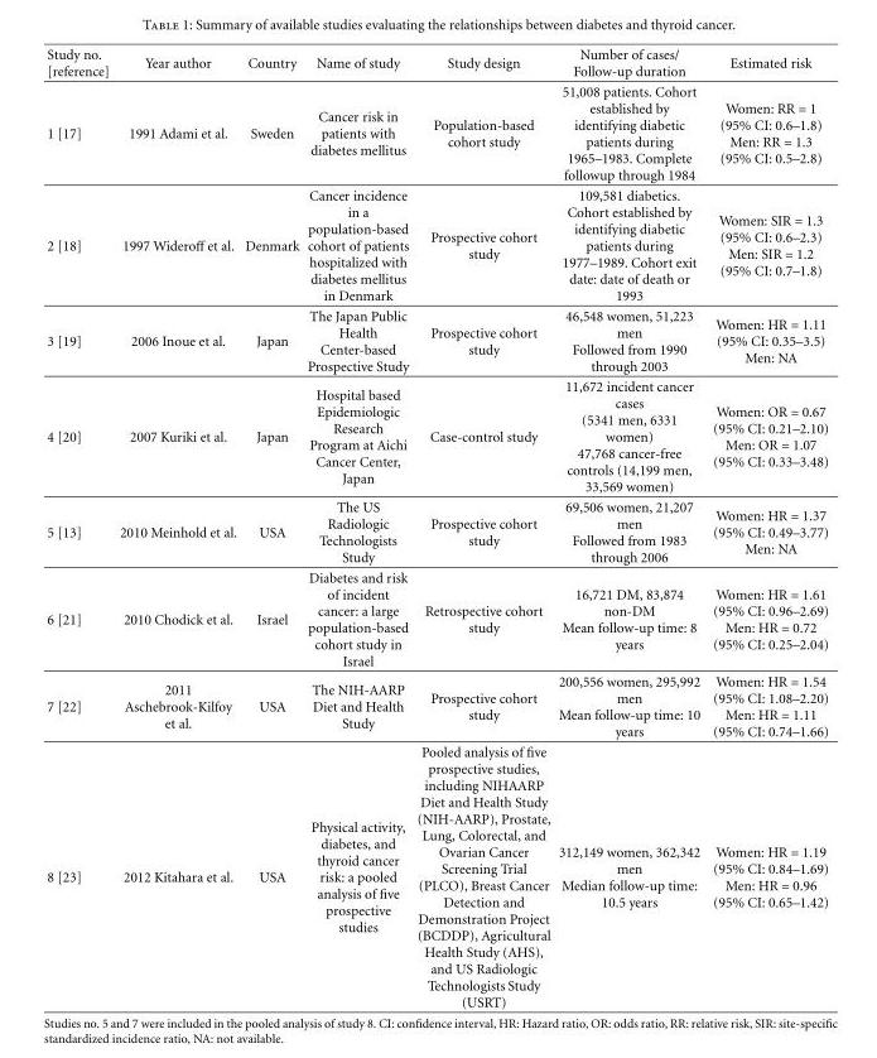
<table><thead><tr><td>Study no. [reference]</td><td>Year author</td><td>Country</td><td>Name of study</td><td>Study design</td><td>Number of cases/ Follow-up duration</td><td>Estimated risk</td></tr></thead><tbody><tr><td>1 [17]</td><td>1991 Adami et al.</td><td>Sweden</td><td>Cancer risk in patients with diabetes mellitus</td><td>Population-based cohort study</td><td>51,008 patients. Cohort established by identifying diabetic patients during 1965–1983. Complete followup through 1984</td><td>Women: RR = 1 (95% CI: 0.6–1.8) Men: RR = 1.3 (95% CI: 0.5–2.8)</td></tr><tr><td>2 [18]</td><td>1997 Wideroff et al.</td><td>Denmark</td><td>Cancer incidence in a population-based cohort of patients hospitalized with diabetes mellitus in Denmark</td><td>Prospective cohort study</td><td>109,581 diabetics. Cohort established by identifying diabetic patients during 1977–1989. Cohort exit date: date of death or 1993</td><td>Women: SIR = 1.3 (95% CI: 0.6–2.3) Men: SIR = 1.2 (95% CI: 0.7–1.8)</td></tr><tr><td>3 [19]</td><td>2006 Inoue et al.</td><td>Japan</td><td>The Japan Public Health Center-based Prospective Study</td><td>Prospective cohort study</td><td>46,548 women, 51,223 men Followed from 1990 through 2003</td><td>Women: HR = 1.11 (95% CI: 0.35–3.5) Men: NA</td></tr><tr><td>4 [20]</td><td>2007 Kuriki et al.</td><td>Japan</td><td>Hospital based Epidemiologic Research Program at Aichi Cancer Center, Japan</td><td>Case-control study</td><td>11,672 incident cancer cases (5341 men, 6331 women) 47,768 cancer-free controls (14,199 men, 33,569 women)</td><td>Women: OR = 0.67 (95% CI: 0.21–2.10) Men: OR = 1.07 (95% CI: 0.33–3.48)</td></tr><tr><td>5 [13]</td><td>2010 Meinhold et al.</td><td>USA</td><td>The US Radiologic Technologists Study</td><td>Prospective cohort study</td><td>69,506 women, 21,207 men Followed from 1983 through 2006</td><td>Women: HR = 1.37 (95% CI: 0.49–3.77) Men: NA</td></tr><tr><td>6 [21]</td><td>2010 Chodick et al.</td><td>Israel</td><td>Diabetes and risk of incident cancer: a large population-based cohort study in Israel</td><td>Retrospective cohort study</td><td>16,721 DM, 83,874 non-DM Mean follow-up time: 8 years</td><td>Women: HR = 1.61 (95% CI: 0.96–2.69) Men: HR = 0.72 (95% CI: 0.25–2.04)</td></tr><tr><td>7 [22]</td><td>2011 Aschebrook-Kilfoy et al.</td><td>USA</td><td>The NIH-AARP Diet and Health Study</td><td>Prospective cohort study</td><td>200,556 women, 295,992 men Mean follow-up time: 10 years</td><td>Women: HR = 1.54 (95% CI: 1.08–2.20) Men: HR = 1.11 (95% CI: 0.74–1.66)</td></tr><tr><td>8 [23]</td><td>2012 Kitahara et al.</td><td>USA</td><td>Physical activity, diabetes, and thyroid cancer risk: a pooled analysis of five prospective studies</td><td>Pooled analysis of five prospective studies, including NIHAARP Diet and Health Study (NIH-AARP), Prostate, Lung, Colorectal, and Ovarian Cancer Screening Trial (PLCO), Breast Cancer Detection and Demonstration Project (BCDDP), Agricultural Health Study (AHS), and US Radiologic Technologists Study (USRT)</td><td>312,149 women, 362,342 men Median follow-up time: 10.5 years</td><td>Women: HR = 1.19 (95% CI: 0.84–1.69) Men: HR = 0.96 (95% CI: 0.65–1.42)</td></tr></tbody></table>